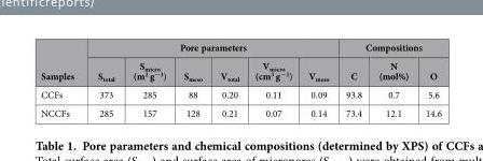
<table><thead><tr><td rowspan="2">Samples</td><td colspan="6">Pore parameters</td><td colspan="3">Compositions</td></tr><tr><td>S<sub>total</sub></td><td>S<sub>micro</sub> (m<sup>2</sup> g<sup>−1</sup>)</td><td>S<sub>meso</sub></td><td>V<sub>total</sub></td><td>V<sub>micro</sub> (cm<sup>3</sup> g<sup>−1</sup>)</td><td>V<sub>meso</sub></td><td>C</td><td>N (mol%)</td><td>O</td></tr></thead><tbody><tr><td>CCFs</td><td>373</td><td>285</td><td>88</td><td>0.20</td><td>0.11</td><td>0.09</td><td>93.8</td><td>0.7</td><td>5.6</td></tr><tr><td>NCCFs</td><td>285</td><td>157</td><td>128</td><td>0.21</td><td>0.07</td><td>0.14</td><td>73.4</td><td>12.1</td><td>14.6</td></tr></tbody></table>